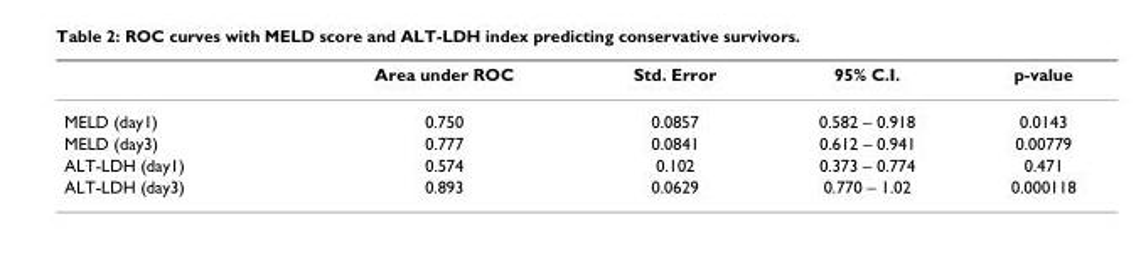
<table><thead><tr><td></td><td>Area under ROC</td><td>Std. Error</td><td>95% C.I.</td><td>p-value</td></tr></thead><tbody><tr><td>MELD (day1)</td><td>0.750</td><td>0.0857</td><td>0.582 – 0.918</td><td>0.0143</td></tr><tr><td>MELD (day3)</td><td>0.777</td><td>0.0841</td><td>0.612 – 0.941</td><td>0.00779</td></tr><tr><td>ALT-LDH (day1)</td><td>0.574</td><td>0.102</td><td>0.373 – 0.774</td><td>0.471</td></tr><tr><td>ALT-LDH (day3)</td><td>0.893</td><td>0.0629</td><td>0.770 – 1.02</td><td>0.000118</td></tr></tbody></table>